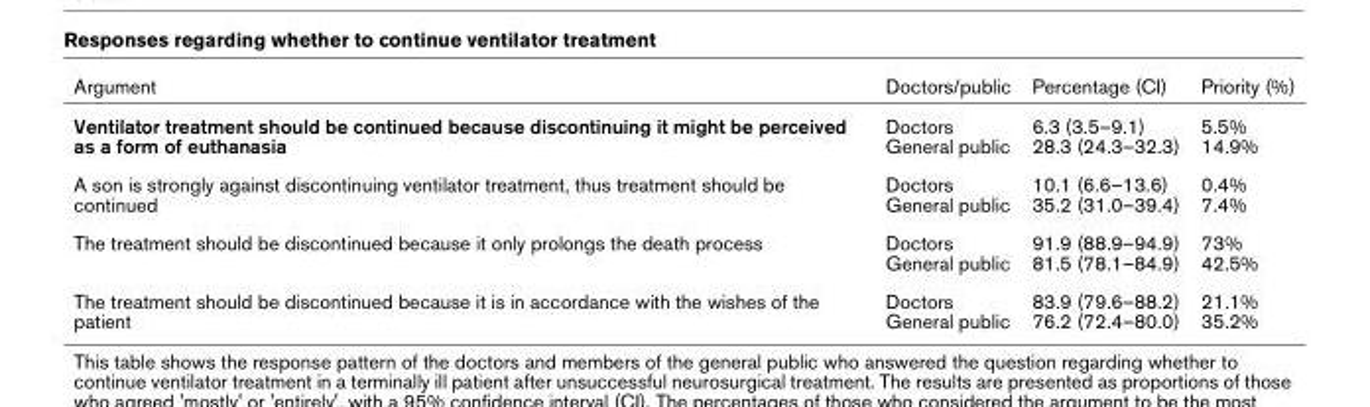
<table><thead><tr><td>Argument</td><td>Doctors/public</td><td>Percentage (CI)</td><td>Priority (%)</td></tr></thead><tbody><tr><td>Ventilator treatment should be continued because discontinuing it might be perceived as a form of euthanasia</td><td>Doctors General public</td><td>6.3 (3.5–9.1) 28.3 (24.3–32.3)</td><td>5.5% 14.9%</td></tr><tr><td>A son is strongly against discontinuing ventilator treatment, thus treatment should be continued</td><td>Doctors General public</td><td>10.1 (6.6–13.6) 35.2 (31.0–39.4)</td><td>0.4% 7.4%</td></tr><tr><td>The treatment should be discontinued because it only prolongs the death process</td><td>Doctors General public</td><td>91.9 (88.9–94.9) 81.5 (78.1–84.9)</td><td>73% 42.5%</td></tr><tr><td>The treatment should be discontinued because it is in accordance with the wishes of the patient</td><td>Doctors General public</td><td>83.9 (79.6–88.2) 76.2 (72.4–80.0)</td><td>21.1% 35.2%</td></tr></tbody></table>